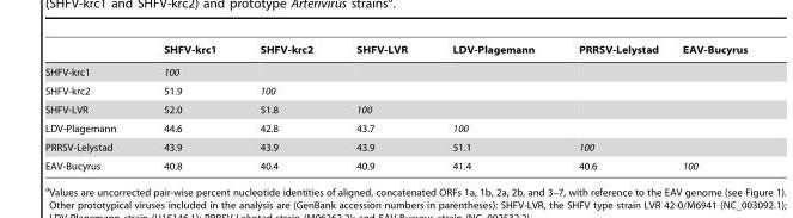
<table><thead><tr><td></td><td>SHFV-krc1</td><td>SHFV-krc2</td><td>SHFV-LVR</td><td>LDV-Plagemann</td><td>PRRSV-Lelystad</td><td>EAV-Bucyrus</td></tr></thead><tbody><tr><td>SHFV-krc1</td><td>100</td><td></td><td></td><td></td><td></td><td></td></tr><tr><td>SHFV-krc2</td><td>51.9</td><td>100</td><td></td><td></td><td></td><td></td></tr><tr><td>SHFV-LVR</td><td>52.0</td><td>51.8</td><td>100</td><td></td><td></td><td></td></tr><tr><td>LDV-Plagemann</td><td>44.6</td><td>42.8</td><td>43.7</td><td>100</td><td></td><td></td></tr><tr><td>PRRSV-Lelystad</td><td>43.9</td><td>43.9</td><td>43.9</td><td>51.1</td><td>100</td><td></td></tr><tr><td>EAV-Bucyrus</td><td>40.8</td><td>40.4</td><td>40.9</td><td>41.4</td><td>40.6</td><td>100</td></tr></tbody></table>